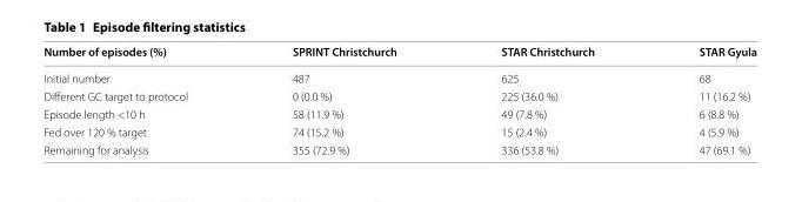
<table><thead><tr><td>Number of episodes (%)</td><td>SPRINT Christchurch</td><td>STAR Christchurch</td><td>STAR Gyula</td></tr></thead><tbody><tr><td>Initial number</td><td>487</td><td>625</td><td>68</td></tr><tr><td>Different GC target to protocol</td><td>0 (0.0 %)</td><td>225 (36.0 %)</td><td>11 (16.2 %)</td></tr><tr><td>Episode length &lt;10 h</td><td>58 (11.9 %)</td><td>49 (7.8 %)</td><td>6 (8.8 %)</td></tr><tr><td>Fed over 120 % target</td><td>74 (15.2 %)</td><td>15 (2.4 %)</td><td>4 (5.9 %)</td></tr><tr><td>Remaining for analysis</td><td>355 (72.9 %)</td><td>336 (53.8 %)</td><td>47 (69.1 %)</td></tr></tbody></table>